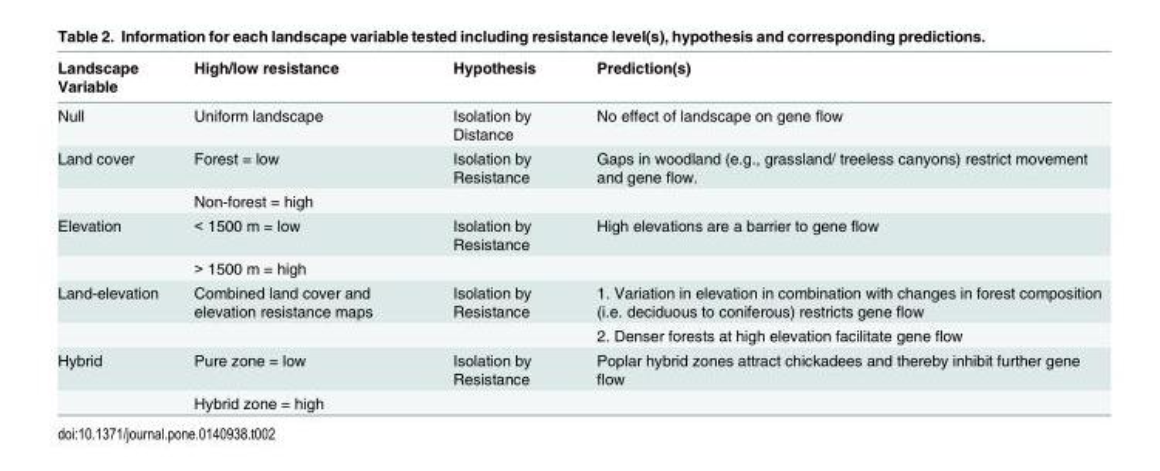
<table><thead><tr><td>Landscape Variable</td><td>High/low resistance</td><td>Hypothesis</td><td>Prediction(s)</td></tr></thead><tbody><tr><td>Null</td><td>Uniform landscape</td><td>Isolation by Distance</td><td>No effect of landscape on gene flow</td></tr><tr><td rowspan="2">Land cover</td><td>Forest = low</td><td>Isolation by Resistance</td><td>Gaps in woodland (e.g., grassland/ treeless canyons) restrict movement and gene flow.</td></tr><tr><td>Non-forest = high</td><td></td><td></td></tr><tr><td rowspan="2">Elevation</td><td>&lt; 1500 m = low</td><td>Isolation by Resistance</td><td>High elevations are a barrier to gene flow</td></tr><tr><td>&gt; 1500 m = high</td><td></td><td></td></tr><tr><td rowspan="2">Land-elevation</td><td>Combined land cover and elevation resistance maps</td><td>Isolation by Resistance</td><td>1. Variation in elevation in combination with changes in forest composition (i.e. deciduous to coniferous) restricts gene flow</td></tr><tr><td></td><td></td><td>2. Denser forests at high elevation facilitate gene flow</td></tr><tr><td rowspan="2">Hybrid</td><td>Pure zone = low</td><td>Isolation by Resistance</td><td>Poplar hybrid zones attract chickadees and thereby inhibit further gene flow</td></tr><tr><td>Hybrid zone = high</td><td></td><td></td></tr></tbody></table>